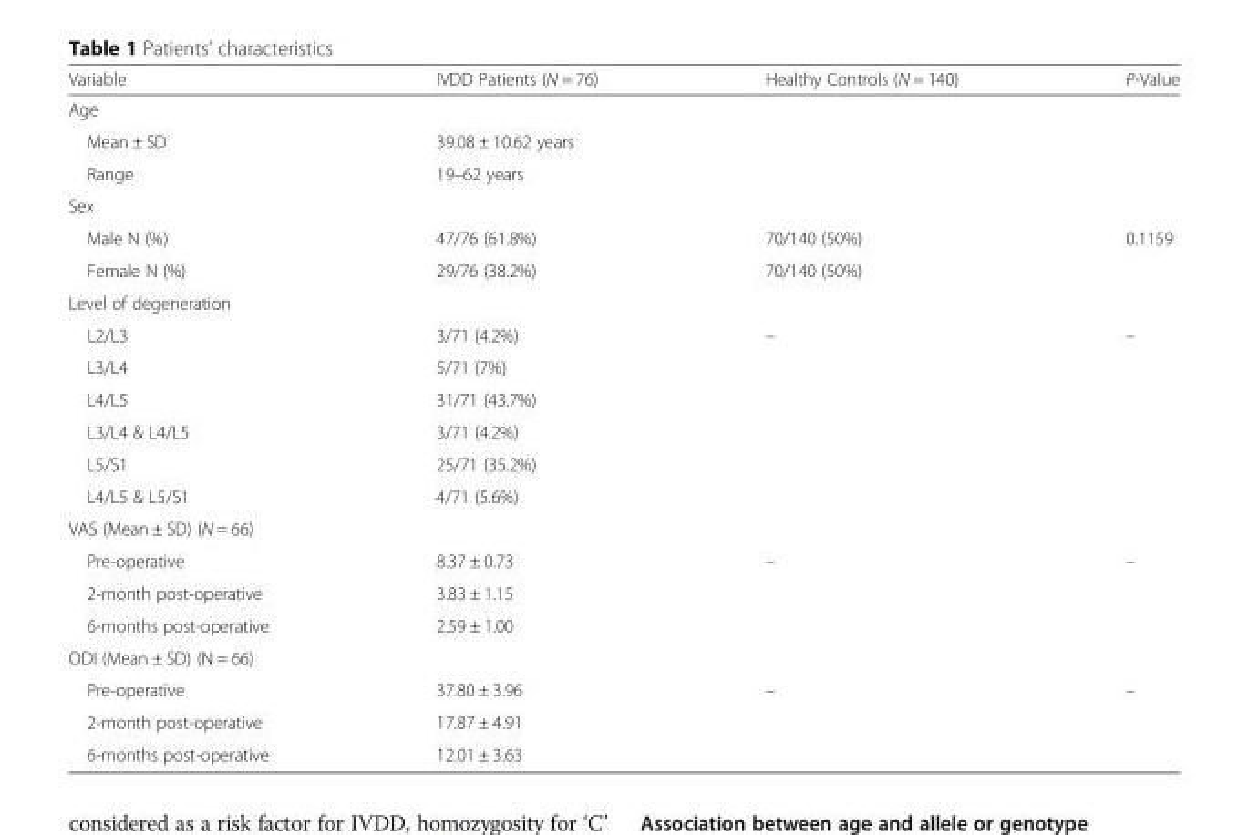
<table><thead><tr><td>Variable</td><td>IVDD Patients (N = 76)</td><td>Healthy Controls (N = 140)</td><td>P-Value</td></tr></thead><tbody><tr><td colspan="4">Age</td></tr><tr><td>Mean ± SD</td><td>39.08 ± 10.62 years</td><td></td><td></td></tr><tr><td>Range</td><td>19–62 years</td><td></td><td></td></tr><tr><td colspan="4">Sex</td></tr><tr><td>Male N (%)</td><td>47/76 (61.8%)</td><td>70/140 (50%)</td><td>0.1159</td></tr><tr><td>Female N (%)</td><td>29/76 (38.2%)</td><td>70/140 (50%)</td><td></td></tr><tr><td colspan="4">Level of degeneration</td></tr><tr><td>L2/L3</td><td>3/71 (4.2%)</td><td rowspan="6">–</td><td rowspan="6">–</td></tr><tr><td>L3/L4</td><td>5/71 (7%)</td></tr><tr><td>L4/L5</td><td>31/71 (43.7%)</td></tr><tr><td>L3/L4 &amp; L4/L5</td><td>3/71 (4.2%)</td></tr><tr><td>L5/S1</td><td>25/71 (35.2%)</td></tr><tr><td>L4/L5 &amp; L5/S1</td><td>4/71 (5.6%)</td></tr><tr><td colspan="4">VAS (Mean ± SD) (N = 66)</td></tr><tr><td>Pre-operative</td><td>8.37 ± 0.73</td><td rowspan="3">–</td><td rowspan="3">–</td></tr><tr><td>2-month post-operative</td><td>3.83 ± 1.15</td></tr><tr><td>6-months post-operative</td><td>2.59 ± 1.00</td></tr><tr><td colspan="4">ODI (Mean ± SD) (N = 66)</td></tr><tr><td>Pre-operative</td><td>37.80 ± 3.96</td><td rowspan="3">–</td><td rowspan="3">–</td></tr><tr><td>2-month post-operative</td><td>17.87 ± 4.91</td></tr><tr><td>6-months post-operative</td><td>12.01 ± 3.63</td></tr></tbody></table>